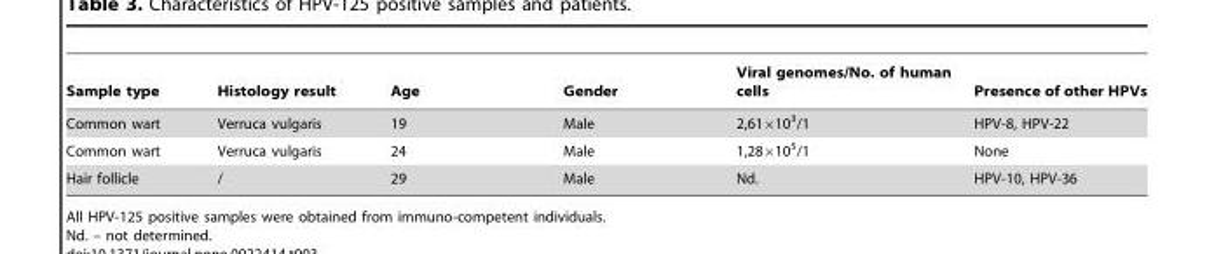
<table><thead><tr><td>Sample type</td><td>Histology result</td><td>Age</td><td>Gender</td><td>Viral genomes/No. of human cells</td><td>Presence of other HPVs</td></tr></thead><tbody><tr><td>Common wart</td><td>Verruca vulgaris</td><td>19</td><td>Male</td><td>2,61×10<sup>3</sup>/1</td><td>HPV-8, HPV-22</td></tr><tr><td>Common wart</td><td>Verruca vulgaris</td><td>24</td><td>Male</td><td>1,28×10<sup>5</sup>/1</td><td>None</td></tr><tr><td>Hair follicle</td><td>/</td><td>29</td><td>Male</td><td>Nd.</td><td>HPV-10, HPV-36</td></tr></tbody></table>